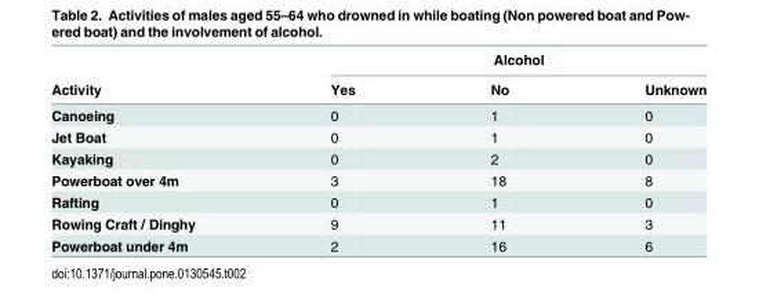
<table><thead><tr><td rowspan="2">Activity</td><td colspan="3">Alcohol</td></tr><tr><td>Yes</td><td>No</td><td>Unknown</td></tr></thead><tbody><tr><td>Canoeing</td><td>0</td><td>1</td><td>0</td></tr><tr><td>Jet Boat</td><td>0</td><td>1</td><td>0</td></tr><tr><td>Kayaking</td><td>0</td><td>2</td><td>0</td></tr><tr><td>Powerboat over 4m</td><td>3</td><td>18</td><td>8</td></tr><tr><td>Rafting</td><td>0</td><td>1</td><td>0</td></tr><tr><td>Rowing Craft / Dinghy</td><td>9</td><td>11</td><td>3</td></tr><tr><td>Powerboat under 4m</td><td>2</td><td>16</td><td>6</td></tr></tbody></table>